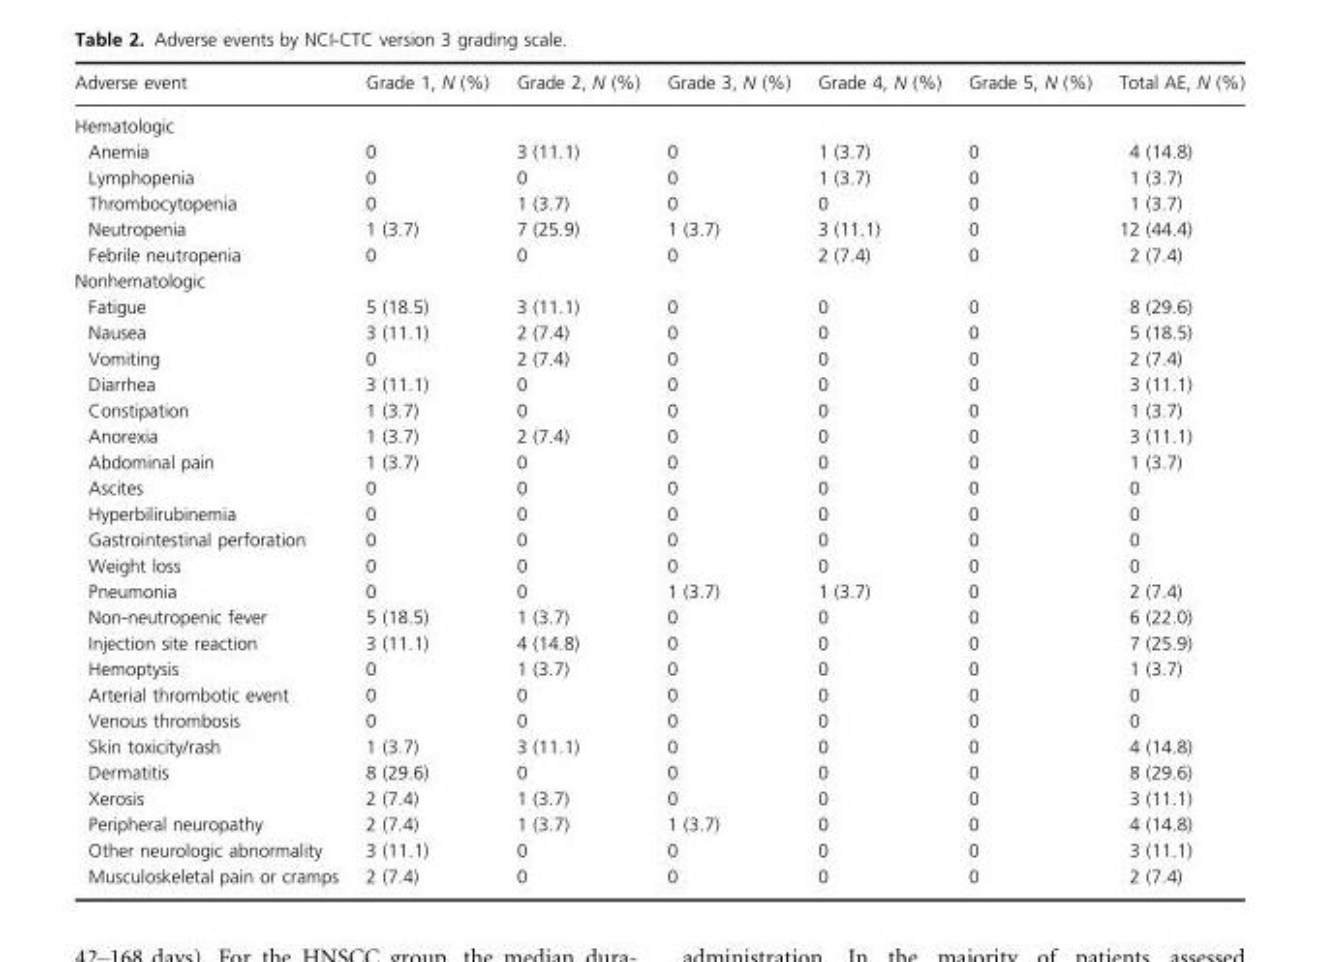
<table><thead><tr><td>Adverse event</td><td>Grade 1, N (%)</td><td>Grade 2, N (%)</td><td>Grade 3, N (%)</td><td>Grade 4, N (%)</td><td>Grade 5, N (%)</td><td>Total AE, N (%)</td></tr></thead><tbody><tr><td colspan="7">Hematologic</td></tr><tr><td>Anemia</td><td>0</td><td>3 (11.1)</td><td>0</td><td>1 (3.7)</td><td>0</td><td>4 (14.8)</td></tr><tr><td>Lymphopenia</td><td>0</td><td>0</td><td>0</td><td>1 (3.7)</td><td>0</td><td>1 (3.7)</td></tr><tr><td>Thrombocytopenia</td><td>0</td><td>1 (3.7)</td><td>0</td><td>0</td><td>0</td><td>1 (3.7)</td></tr><tr><td>Neutropenia</td><td>1 (3.7)</td><td>7 (25.9)</td><td>1 (3.7)</td><td>3 (11.1)</td><td>0</td><td>12 (44.4)</td></tr><tr><td>Febrile neutropenia</td><td>0</td><td>0</td><td>0</td><td>2 (7.4)</td><td>0</td><td>2 (7.4)</td></tr><tr><td colspan="7">Nonhematologic</td></tr><tr><td>Fatigue</td><td>5 (18.5)</td><td>3 (11.1)</td><td>0</td><td>0</td><td>0</td><td>8 (29.6)</td></tr><tr><td>Nausea</td><td>3 (11.1)</td><td>2 (7.4)</td><td>0</td><td>0</td><td>0</td><td>5 (18.5)</td></tr><tr><td>Vomiting</td><td>0</td><td>2 (7.4)</td><td>0</td><td>0</td><td>0</td><td>2 (7.4)</td></tr><tr><td>Diarrhea</td><td>3 (11.1)</td><td>0</td><td>0</td><td>0</td><td>0</td><td>3 (11.1)</td></tr><tr><td>Constipation</td><td>1 (3.7)</td><td>0</td><td>0</td><td>0</td><td>0</td><td>1 (3.7)</td></tr><tr><td>Anorexia</td><td>1 (3.7)</td><td>2 (7.4)</td><td>0</td><td>0</td><td>0</td><td>3 (11.1)</td></tr><tr><td>Abdominal pain</td><td>1 (3.7)</td><td>0</td><td>0</td><td>0</td><td>0</td><td>1 (3.7)</td></tr><tr><td>Ascites</td><td>0</td><td>0</td><td>0</td><td>0</td><td>0</td><td>0</td></tr><tr><td>Hyperbilirubinemia</td><td>0</td><td>0</td><td>0</td><td>0</td><td>0</td><td>0</td></tr><tr><td>Gastrointestinal perforation</td><td>0</td><td>0</td><td>0</td><td>0</td><td>0</td><td>0</td></tr><tr><td>Weight loss</td><td>0</td><td>0</td><td>0</td><td>0</td><td>0</td><td>0</td></tr><tr><td>Pneumonia</td><td>0</td><td>0</td><td>1 (3.7)</td><td>1 (3.7)</td><td>0</td><td>2 (7.4)</td></tr><tr><td>Non-neutropenic fever</td><td>5 (18.5)</td><td>1 (3.7)</td><td>0</td><td>0</td><td>0</td><td>6 (22.0)</td></tr><tr><td>Injection site reaction</td><td>3 (11.1)</td><td>4 (14.8)</td><td>0</td><td>0</td><td>0</td><td>7 (25.9)</td></tr><tr><td>Hemoptysis</td><td>0</td><td>1 (3.7)</td><td>0</td><td>0</td><td>0</td><td>1 (3.7)</td></tr><tr><td>Arterial thrombotic event</td><td>0</td><td>0</td><td>0</td><td>0</td><td>0</td><td>0</td></tr><tr><td>Venous thrombosis</td><td>0</td><td>0</td><td>0</td><td>0</td><td>0</td><td>0</td></tr><tr><td>Skin toxicity/rash</td><td>1 (3.7)</td><td>3 (11.1)</td><td>0</td><td>0</td><td>0</td><td>4 (14.8)</td></tr><tr><td>Dermatitis</td><td>8 (29.6)</td><td>0</td><td>0</td><td>0</td><td>0</td><td>8 (29.6)</td></tr><tr><td>Xerosis</td><td>2 (7.4)</td><td>1 (3.7)</td><td>0</td><td>0</td><td>0</td><td>3 (11.1)</td></tr><tr><td>Peripheral neuropathy</td><td>2 (7.4)</td><td>1 (3.7)</td><td>1 (3.7)</td><td>0</td><td>0</td><td>4 (14.8)</td></tr><tr><td>Other neurologic abnormality</td><td>3 (11.1)</td><td>0</td><td>0</td><td>0</td><td>0</td><td>3 (11.1)</td></tr><tr><td>Musculoskeletal pain or cramps</td><td>2 (7.4)</td><td>0</td><td>0</td><td>0</td><td>0</td><td>2 (7.4)</td></tr></tbody></table>